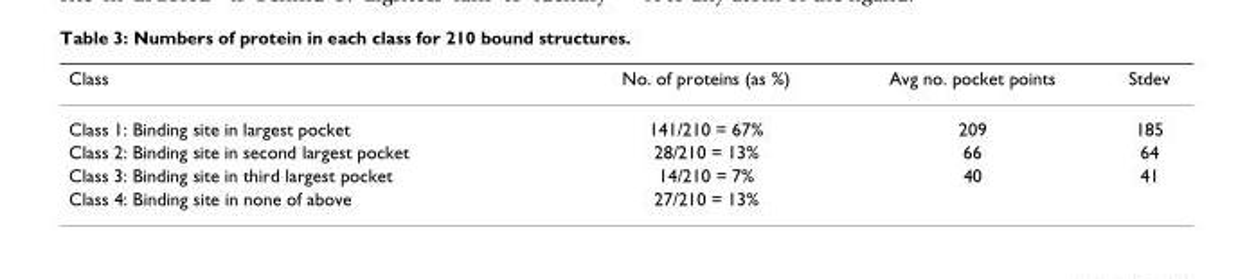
<table><thead><tr><td>Class</td><td>No. of proteins (as %)</td><td>Avg no. pocket points</td><td>Stdev</td></tr></thead><tbody><tr><td>Class 1: Binding site in largest pocket</td><td>141/210 = 67%</td><td>209</td><td>185</td></tr><tr><td>Class 2: Binding site in second largest pocket</td><td>28/210 = 13%</td><td>66</td><td>64</td></tr><tr><td>Class 3: Binding site in third largest pocket</td><td>14/210 = 7%</td><td>40</td><td>41</td></tr><tr><td>Class 4: Binding site in none of above</td><td>27/210 = 13%</td><td></td><td></td></tr></tbody></table>